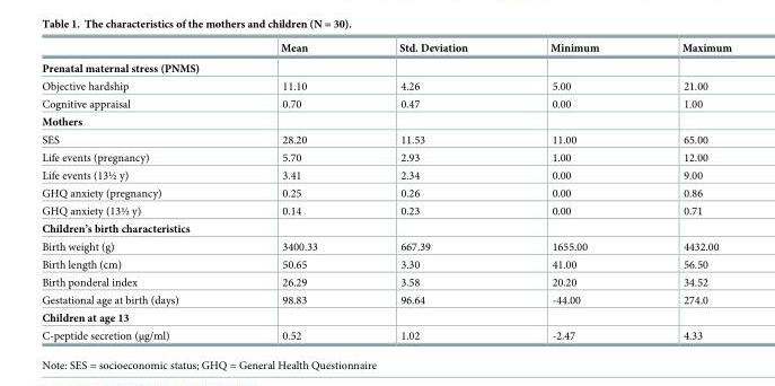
<table><thead><tr><td></td><td>Mean</td><td>Std. Deviation</td><td>Minimum</td><td>Maximum</td></tr></thead><tbody><tr><td colspan="5">Prenatal maternal stress (PNMS)</td></tr><tr><td>Objective hardship</td><td>11.10</td><td>4.26</td><td>5.00</td><td>21.00</td></tr><tr><td>Cognitive appraisal</td><td>0.70</td><td>0.47</td><td>0.00</td><td>1.00</td></tr><tr><td colspan="5">Mothers</td></tr><tr><td>SES</td><td>28.20</td><td>11.53</td><td>11.00</td><td>65.00</td></tr><tr><td>Life events (pregnancy)</td><td>5.70</td><td>2.93</td><td>1.00</td><td>12.00</td></tr><tr><td>Life events (13½ y)</td><td>3.41</td><td>2.34</td><td>0.00</td><td>9.00</td></tr><tr><td>GHQ anxiety (pregnancy)</td><td>0.25</td><td>0.26</td><td>0.00</td><td>0.86</td></tr><tr><td>GHQ anxiety (13½ y)</td><td>0.14</td><td>0.23</td><td>0.00</td><td>0.71</td></tr><tr><td colspan="5">Children’s birth characteristics</td></tr><tr><td>Birth weight (g)</td><td>3400.33</td><td>667.39</td><td>1655.00</td><td>4432.00</td></tr><tr><td>Birth length (cm)</td><td>50.65</td><td>3.30</td><td>41.00</td><td>56.50</td></tr><tr><td>Birth ponderal index</td><td>26.29</td><td>3.58</td><td>20.20</td><td>34.52</td></tr><tr><td>Gestational age at birth (days)</td><td>98.83</td><td>96.64</td><td>-44.00</td><td>274.0</td></tr><tr><td colspan="5">Children at age 13</td></tr><tr><td>C-peptide secretion (μg/ml)</td><td>0.52</td><td>1.02</td><td>-2.47</td><td>4.33</td></tr></tbody></table>